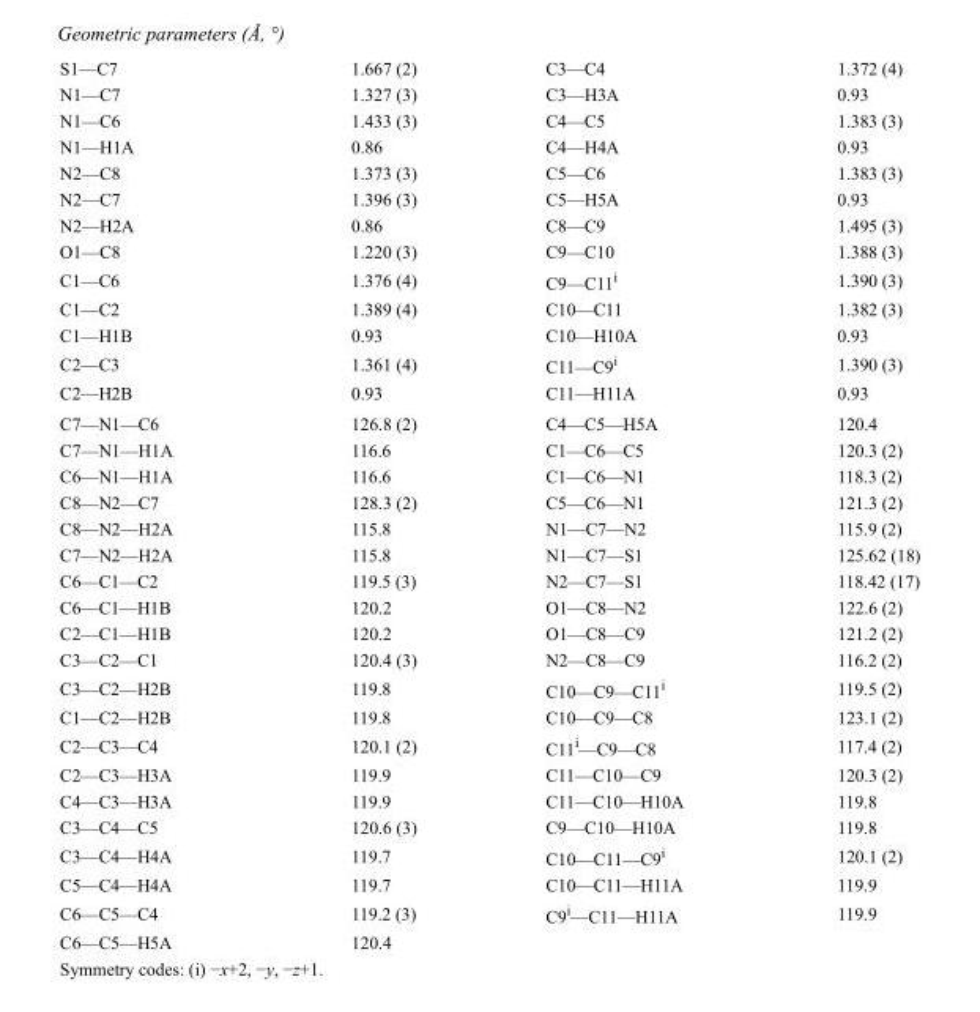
<table><tbody><tr><td>S1—C7</td><td>1.667 (2)</td><td>C3—C4</td><td>1.372 (4)</td></tr><tr><td>N1—C7</td><td>1.327 (3)</td><td>C3—H3A</td><td>0.93</td></tr><tr><td>N1—C6</td><td>1.433 (3)</td><td>C4—C5</td><td>1.383 (3)</td></tr><tr><td>N1—H1A</td><td>0.86</td><td>C4—H4A</td><td>0.93</td></tr><tr><td>N2—C8</td><td>1.373 (3)</td><td>C5—C6</td><td>1.383 (3)</td></tr><tr><td>N2—C7</td><td>1.396 (3)</td><td>C5—H5A</td><td>0.93</td></tr><tr><td>N2—H2A</td><td>0.86</td><td>C8—C9</td><td>1.495 (3)</td></tr><tr><td>O1—C8</td><td>1.220 (3)</td><td>C9—C10</td><td>1.388 (3)</td></tr><tr><td>C1—C6</td><td>1.376 (4)</td><td>C9—C11<sup>i</sup></td><td>1.390 (3)</td></tr><tr><td>C1—C2</td><td>1.389 (4)</td><td>C10—C11</td><td>1.382 (3)</td></tr><tr><td>C1—H1B</td><td>0.93</td><td>C10—H10A</td><td>0.93</td></tr><tr><td>C2—C3</td><td>1.361 (4)</td><td>C11—C9<sup>i</sup></td><td>1.390 (3)</td></tr><tr><td>C2—H2B</td><td>0.93</td><td>C11—H11A</td><td>0.93</td></tr><tr><td>C7—N1—C6</td><td>126.8 (2)</td><td>C4—C5—H5A</td><td>120.4</td></tr><tr><td>C7—N1—H1A</td><td>116.6</td><td>C1—C6—C5</td><td>120.3 (2)</td></tr><tr><td>C6—N1—H1A</td><td>116.6</td><td>C1—C6—N1</td><td>118.3 (2)</td></tr><tr><td>C8—N2—C7</td><td>128.3 (2)</td><td>C5—C6—N1</td><td>121.3 (2)</td></tr><tr><td>C8—N2—H2A</td><td>115.8</td><td>N1—C7—N2</td><td>115.9 (2)</td></tr><tr><td>C7—N2—H2A</td><td>115.8</td><td>N1—C7—S1</td><td>125.62 (18)</td></tr><tr><td>C6—C1—C2</td><td>119.5 (3)</td><td>N2—C7—S1</td><td>118.42 (17)</td></tr><tr><td>C6—C1—H1B</td><td>120.2</td><td>O1—C8—N2</td><td>122.6 (2)</td></tr><tr><td>C2—C1—H1B</td><td>120.2</td><td>O1—C8—C9</td><td>121.2 (2)</td></tr><tr><td>C3—C2—C1</td><td>120.4 (3)</td><td>N2—C8—C9</td><td>116.2 (2)</td></tr><tr><td>C3—C2—H2B</td><td>119.8</td><td>C10—C9—C11<sup>i</sup></td><td>119.5 (2)</td></tr><tr><td>C1—C2—H2B</td><td>119.8</td><td>C10—C9—C8</td><td>123.1 (2)</td></tr><tr><td>C2—C3—C4</td><td>120.1 (2)</td><td>C11<sup>i</sup>—C9—C8</td><td>117.4 (2)</td></tr><tr><td>C2—C3—H3A</td><td>119.9</td><td>C11—C10—C9</td><td>120.3 (2)</td></tr><tr><td>C4—C3—H3A</td><td>119.9</td><td>C11—C10—H10A</td><td>119.8</td></tr><tr><td>C3—C4—C5</td><td>120.6 (3)</td><td>C9—C10—H10A</td><td>119.8</td></tr><tr><td>C3—C4—H4A</td><td>119.7</td><td>C10—C11—C9<sup>i</sup></td><td>120.1 (2)</td></tr><tr><td>C5—C4—H4A</td><td>119.7</td><td>C10—C11—H11A</td><td>119.9</td></tr><tr><td>C6—C5—C4</td><td>119.2 (3)</td><td>C9<sup>i</sup>—C11—H11A</td><td>119.9</td></tr><tr><td>C6—C5—H5A</td><td>120.4</td><td></td><td></td></tr></tbody></table>